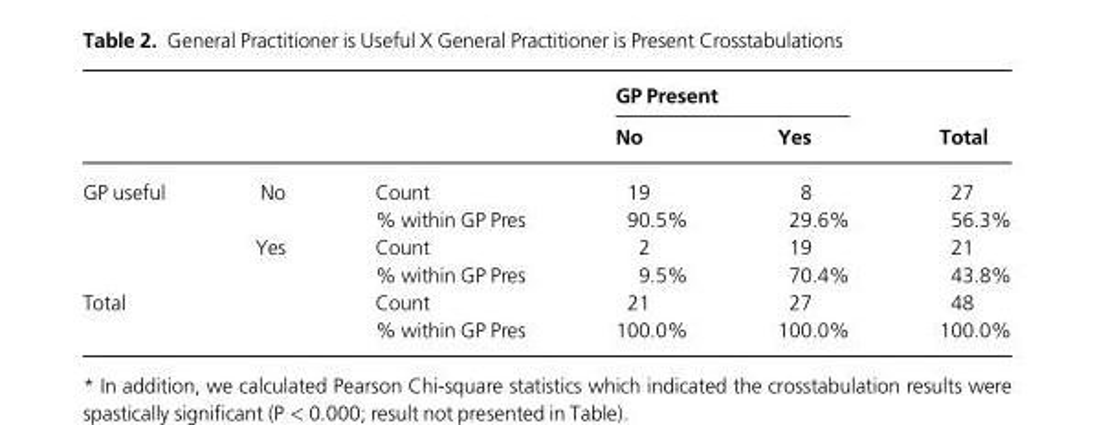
<table><thead><tr><td rowspan="2"></td><td rowspan="2"></td><td rowspan="2"></td><td colspan="2">GP Present</td><td rowspan="2">Total</td></tr><tr><td>No</td><td>Yes</td></tr></thead><tbody><tr><td rowspan="4">GP useful</td><td rowspan="2">No</td><td>Count</td><td>19</td><td>8</td><td>27</td></tr><tr><td>% within GP Pres</td><td>90.5%</td><td>29.6%</td><td>56.3%</td></tr><tr><td rowspan="2">Yes</td><td>Count</td><td>2</td><td>19</td><td>21</td></tr><tr><td>% within GP Pres</td><td>9.5%</td><td>70.4%</td><td>43.8%</td></tr><tr><td rowspan="2" colspan="2">Total</td><td>Count</td><td>21</td><td>27</td><td>48</td></tr><tr><td>% within GP Pres</td><td>100.0%</td><td>100.0%</td><td>100.0%</td></tr></tbody></table>